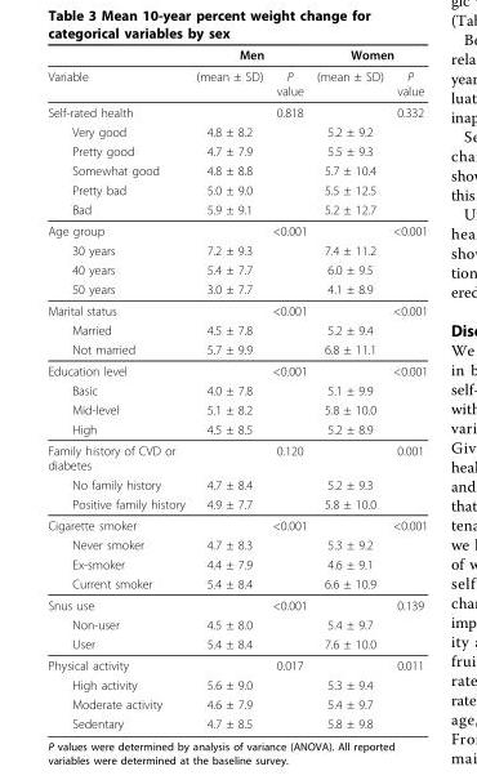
<table><thead><tr><td rowspan="2">Variable</td><td colspan="2">Men</td><td colspan="2">Women</td></tr><tr><td>(mean ± SD)</td><td>P value</td><td>(mean ± SD)</td><td>P value</td></tr></thead><tbody><tr><td>Self-rated health</td><td></td><td>0.818</td><td></td><td>0.332</td></tr><tr><td>Very good</td><td>4.8 ± 8.2</td><td></td><td>5.2 ± 9.2</td><td></td></tr><tr><td>Pretty good</td><td>4.7 ± 7.9</td><td></td><td>5.5 ± 9.3</td><td></td></tr><tr><td>Somewhat good</td><td>4.8 ± 8.8</td><td></td><td>5.7 ± 10.4</td><td></td></tr><tr><td>Pretty bad</td><td>5.0 ± 9.0</td><td></td><td>5.5 ± 12.5</td><td></td></tr><tr><td>Bad</td><td>5.9 ± 9.1</td><td></td><td>5.2 ± 12.7</td><td></td></tr><tr><td>Age group</td><td></td><td>&lt;0.001</td><td></td><td>&lt;0.001</td></tr><tr><td>30 years</td><td>7.2 ± 9.3</td><td></td><td>7.4 ± 11.2</td><td></td></tr><tr><td>40 years</td><td>5.4 ± 7.7</td><td></td><td>6.0 ± 9.5</td><td></td></tr><tr><td>50 years</td><td>3.0 ± 7.7</td><td></td><td>4.1 ± 8.9</td><td></td></tr><tr><td>Marital status</td><td></td><td>&lt;0.001</td><td></td><td>&lt;0.001</td></tr><tr><td>Married</td><td>4.5 ± 7.8</td><td></td><td>5.2 ± 9.4</td><td></td></tr><tr><td>Not married</td><td>5.7 ± 9.9</td><td></td><td>6.8 ± 11.1</td><td></td></tr><tr><td>Education level</td><td></td><td>&lt;0.001</td><td></td><td>&lt;0.001</td></tr><tr><td>Basic</td><td>4.0 ± 7.8</td><td></td><td>5.1 ± 9.9</td><td></td></tr><tr><td>Mid-level</td><td>5.1 ± 8.2</td><td></td><td>5.8 ± 10.0</td><td></td></tr><tr><td>High</td><td>4.5 ± 8.5</td><td></td><td>5.2 ± 8.9</td><td></td></tr><tr><td>Family history of CVD or diabetes</td><td></td><td>0.120</td><td></td><td>0.001</td></tr><tr><td>No family history</td><td>4.7 ± 8.4</td><td></td><td>5.2 ± 9.3</td><td></td></tr><tr><td>Positive family history</td><td>4.9 ± 7.7</td><td></td><td>5.8 ± 10.0</td><td></td></tr><tr><td>Cigarette smoker</td><td></td><td>&lt;0.001</td><td></td><td>&lt;0.001</td></tr><tr><td>Never smoker</td><td>4.7 ± 8.3</td><td></td><td>5.3 ± 9.2</td><td></td></tr><tr><td>Ex-smoker</td><td>4.4 ± 7.9</td><td></td><td>4.6 ± 9.1</td><td></td></tr><tr><td>Current smoker</td><td>5.4 ± 8.4</td><td></td><td>6.6 ± 10.9</td><td></td></tr><tr><td>Snus use</td><td></td><td>&lt;0.001</td><td></td><td>0.139</td></tr><tr><td>Non-user</td><td>4.5 ± 8.0</td><td></td><td>5.4 ± 9.7</td><td></td></tr><tr><td>User</td><td>5.4 ± 8.4</td><td></td><td>7.6 ± 10.0</td><td></td></tr><tr><td>Physical activity</td><td></td><td>0.017</td><td></td><td>0.011</td></tr><tr><td>High activity</td><td>5.6 ± 9.0</td><td></td><td>5.3 ± 9.4</td><td></td></tr><tr><td>Moderate activity</td><td>4.6 ± 7.9</td><td></td><td>5.4 ± 9.7</td><td></td></tr><tr><td>Sedentary</td><td>4.7 ± 8.5</td><td></td><td>5.8 ± 9.8</td><td></td></tr></tbody></table>